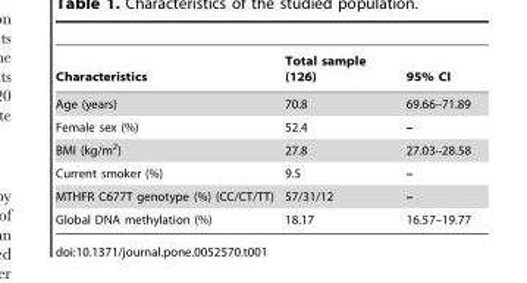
<table><thead><tr><td>Characteristics</td><td>Total sample (126)</td><td>95% CI</td></tr></thead><tbody><tr><td>Age (years)</td><td>70.8</td><td>69.66–71.89</td></tr><tr><td>Female sex (%)</td><td>52.4</td><td>–</td></tr><tr><td>BMI (kg/m<sup>2</sup>)</td><td>27.8</td><td>27.03–28.58</td></tr><tr><td>Current smoker (%)</td><td>9.5</td><td>–</td></tr><tr><td>MTHFR C677T genotype (%) (CC/CT/TT)</td><td>57/31/12</td><td>–</td></tr><tr><td>Global DNA methylation (%)</td><td>18.17</td><td>16.57–19.77</td></tr></tbody></table>